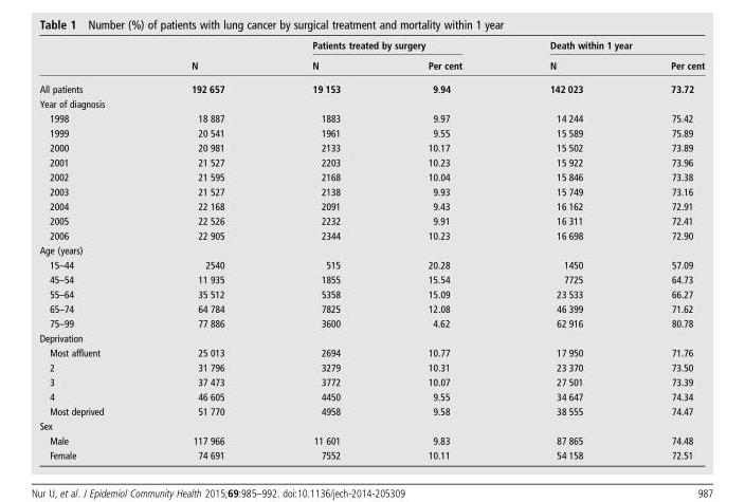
<table><thead><tr><td rowspan="2"></td><td rowspan="2">N</td><td colspan="2">Patients treated by surgery</td><td colspan="2">Death within 1 year</td></tr><tr><td>N</td><td>Per cent</td><td>N</td><td>Per cent</td></tr></thead><tbody><tr><td>All patients</td><td>192 657</td><td>19 153</td><td>9.94</td><td>142 023</td><td>73.72</td></tr><tr><td colspan="6">Year of diagnosis</td></tr><tr><td>1998</td><td>18 887</td><td>1883</td><td>9.97</td><td>14 244</td><td>75.42</td></tr><tr><td>1999</td><td>20 541</td><td>1961</td><td>9.55</td><td>15 589</td><td>75.89</td></tr><tr><td>2000</td><td>20 981</td><td>2133</td><td>10.17</td><td>15 502</td><td>73.89</td></tr><tr><td>2001</td><td>21 527</td><td>2203</td><td>10.23</td><td>15 922</td><td>73.96</td></tr><tr><td>2002</td><td>21 595</td><td>2168</td><td>10.04</td><td>15 846</td><td>73.38</td></tr><tr><td>2003</td><td>21 527</td><td>2138</td><td>9.93</td><td>15 749</td><td>73.16</td></tr><tr><td>2004</td><td>22 168</td><td>2091</td><td>9.43</td><td>16 162</td><td>72.91</td></tr><tr><td>2005</td><td>22 526</td><td>2232</td><td>9.91</td><td>16 311</td><td>72.41</td></tr><tr><td>2006</td><td>22 905</td><td>2344</td><td>10.23</td><td>16 698</td><td>72.90</td></tr><tr><td colspan="6">Age (years)</td></tr><tr><td>15–44</td><td>2540</td><td>515</td><td>20.28</td><td>1450</td><td>57.09</td></tr><tr><td>45–54</td><td>11 935</td><td>1855</td><td>15.54</td><td>7725</td><td>64.73</td></tr><tr><td>55–64</td><td>35 512</td><td>5358</td><td>15.09</td><td>23 533</td><td>66.27</td></tr><tr><td>65–74</td><td>64 784</td><td>7825</td><td>12.08</td><td>46 399</td><td>71.62</td></tr><tr><td>75–99</td><td>77 886</td><td>3600</td><td>4.62</td><td>62 916</td><td>80.78</td></tr><tr><td colspan="6">Deprivation</td></tr><tr><td>Most affluent</td><td>25 013</td><td>2694</td><td>10.77</td><td>17 950</td><td>71.76</td></tr><tr><td>2</td><td>31 796</td><td>3279</td><td>10.31</td><td>23 370</td><td>73.50</td></tr><tr><td>3</td><td>37 473</td><td>3772</td><td>10.07</td><td>27 501</td><td>73.39</td></tr><tr><td>4</td><td>46 605</td><td>4450</td><td>9.55</td><td>34 647</td><td>74.34</td></tr><tr><td>Most deprived</td><td>51 770</td><td>4958</td><td>9.58</td><td>38 555</td><td>74.47</td></tr><tr><td colspan="6">Sex</td></tr><tr><td>Male</td><td>117 966</td><td>11 601</td><td>9.83</td><td>87 865</td><td>74.48</td></tr><tr><td>Female</td><td>74 691</td><td>7552</td><td>10.11</td><td>54 158</td><td>72.51</td></tr></tbody></table>